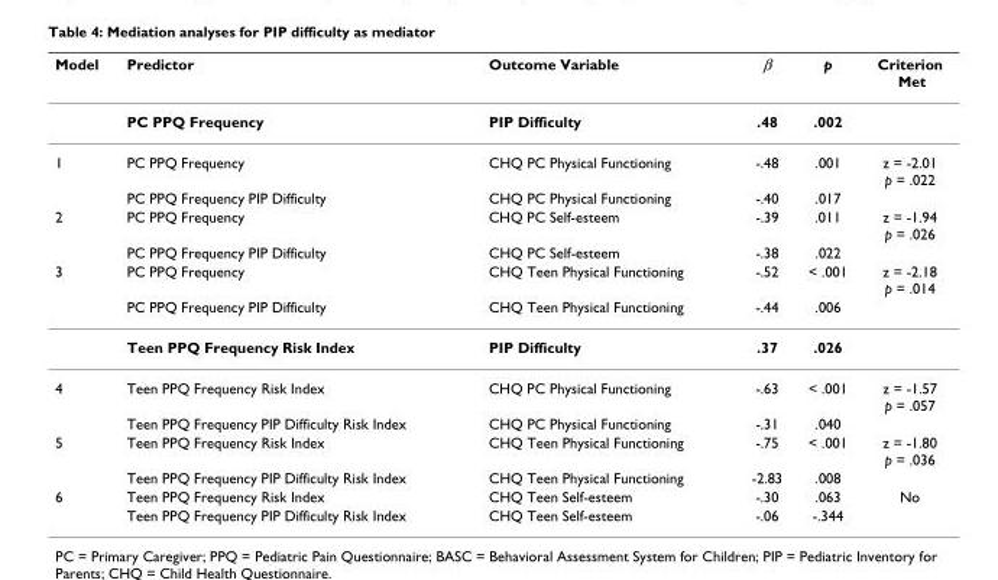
<table><thead><tr><td>Model</td><td>Predictor</td><td>Outcome Variable</td><td>β</td><td>p</td><td>Criterion Met</td></tr></thead><tbody><tr><td></td><td>PC PPQ Frequency</td><td>PIP Difficulty</td><td>.48</td><td>.002</td><td></td></tr><tr><td rowspan="2">1</td><td>PC PPQ Frequency</td><td>CHQ PC Physical Functioning</td><td>-.48</td><td>.001</td><td>z = -2.01 p = .022</td></tr><tr><td>PC PPQ Frequency PIP Difficulty</td><td>CHQ PC Physical Functioning</td><td>-.40</td><td>.017</td><td></td></tr><tr><td rowspan="2">2</td><td>PC PPQ Frequency</td><td>CHQ PC Self-esteem</td><td>-.39</td><td>.011</td><td>z = -1.94 p = .026</td></tr><tr><td>PC PPQ Frequency PIP Difficulty</td><td>CHQ PC Self-esteem</td><td>-.38</td><td>.022</td><td></td></tr><tr><td rowspan="3">3</td><td>PC PPQ Frequency</td><td>CHQ Teen Physical Functioning</td><td>-.52</td><td>&lt; .001</td><td>z = -2.18 p = .014</td></tr><tr><td>PC PPQ Frequency PIP Difficulty</td><td>CHQ Teen Physical Functioning</td><td>-.44</td><td>.006</td><td></td></tr><tr><td>Teen PPQ Frequency Risk Index</td><td>PIP Difficulty</td><td>.37</td><td>.026</td><td></td></tr><tr><td rowspan="2">4</td><td>Teen PPQ Frequency Risk Index</td><td>CHQ PC Physical Functioning</td><td>-.63</td><td>&lt; .001</td><td>z = -1.57 p = .057</td></tr><tr><td>Teen PPQ Frequency PIP Difficulty Risk Index</td><td>CHQ PC Physical Functioning</td><td>-.31</td><td>.040</td><td></td></tr><tr><td rowspan="2">5</td><td>Teen PPQ Frequency Risk Index</td><td>CHQ Teen Physical Functioning</td><td>-.75</td><td>&lt; .001</td><td>z = -1.80 p = .036</td></tr><tr><td>Teen PPQ Frequency PIP Difficulty Risk Index</td><td>CHQ Teen Physical Functioning</td><td>-2.83</td><td>.008</td><td></td></tr><tr><td rowspan="2">6</td><td>Teen PPQ Frequency Risk Index</td><td>CHQ Teen Self-esteem</td><td>-.30</td><td>.063</td><td>No</td></tr><tr><td>Teen PPQ Frequency PIP Difficulty Risk Index</td><td>CHQ Teen Self-esteem</td><td>-.06</td><td>-.344</td><td></td></tr></tbody></table>